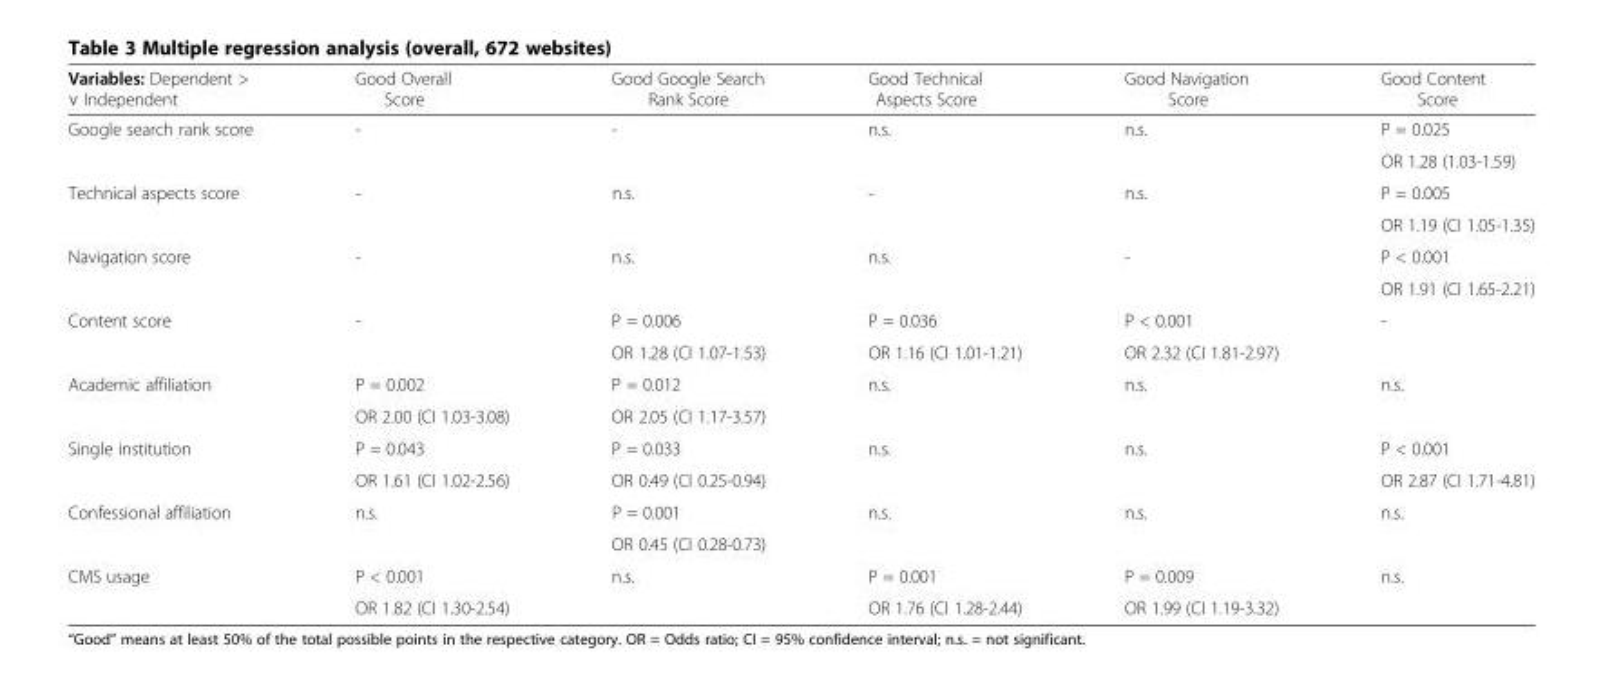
<table><thead><tr><td>Variables: Dependent &gt; ∨ Independent</td><td>Good Overall Score</td><td>Good Google Search Rank Score</td><td>Good Technical Aspects Score</td><td>Good Navigation Score</td><td>Good Content Score</td></tr></thead><tbody><tr><td rowspan="2">Google search rank score</td><td rowspan="2">-</td><td rowspan="2">-</td><td rowspan="2">n.s.</td><td rowspan="2">n.s.</td><td>P = 0.025</td></tr><tr><td>OR 1.28 (1.03-1.59)</td></tr><tr><td rowspan="2">Technical aspects score</td><td rowspan="2">-</td><td rowspan="2">n.s.</td><td rowspan="2">-</td><td rowspan="2">n.s.</td><td>P = 0.005</td></tr><tr><td>OR 1.19 (CI 1.05-1.35)</td></tr><tr><td rowspan="2">Navigation score</td><td rowspan="2">-</td><td rowspan="2">n.s.</td><td rowspan="2">n.s.</td><td rowspan="2">-</td><td>P &lt; 0.001</td></tr><tr><td>OR 1.91 (CI 1.65-2.21)</td></tr><tr><td rowspan="2">Content score</td><td rowspan="2">-</td><td>P = 0.006</td><td>P = 0.036</td><td>P &lt; 0.001</td><td rowspan="2">-</td></tr><tr><td>OR 1.28 (CI 1.07-1.53)</td><td>OR 1.16 (CI 1.01-1.21)</td><td>OR 2.32 (CI 1.81-2.97)</td></tr><tr><td rowspan="2">Academic affiliation</td><td>P = 0.002</td><td>P = 0.012</td><td rowspan="2">n.s.</td><td rowspan="2">n.s.</td><td rowspan="2">n.s.</td></tr><tr><td>OR 2.00 (CI 1.03-3.08)</td><td>OR 2.05 (CI 1.17-3.57)</td></tr><tr><td rowspan="2">Single institution</td><td>P = 0.043</td><td>P = 0.033</td><td>n.s.</td><td>n.s.</td><td>P &lt; 0.001</td></tr><tr><td>OR 1.61 (CI 1.02-2.56)</td><td>OR 0.49 (CI 0.25-0.94)</td><td></td><td></td><td>OR 2.87 (CI 1.71-4.81)</td></tr><tr><td rowspan="2">Confessional affiliation</td><td rowspan="2">n.s.</td><td>P = 0.001</td><td rowspan="2">n.s.</td><td rowspan="2">n.s.</td><td rowspan="2">n.s.</td></tr><tr><td>OR 0.45 (CI 0.28-0.73)</td></tr><tr><td rowspan="2">CMS usage</td><td>P &lt; 0.001</td><td>n.s.</td><td>P = 0.001</td><td>P = 0.009</td><td rowspan="2">n.s.</td></tr><tr><td>OR 1.82 (CI 1.30-2.54)</td><td></td><td>OR 1.76 (CI 1.28-2.44)</td><td>OR 1.99 (CI 1.19-3.32)</td></tr></tbody></table>